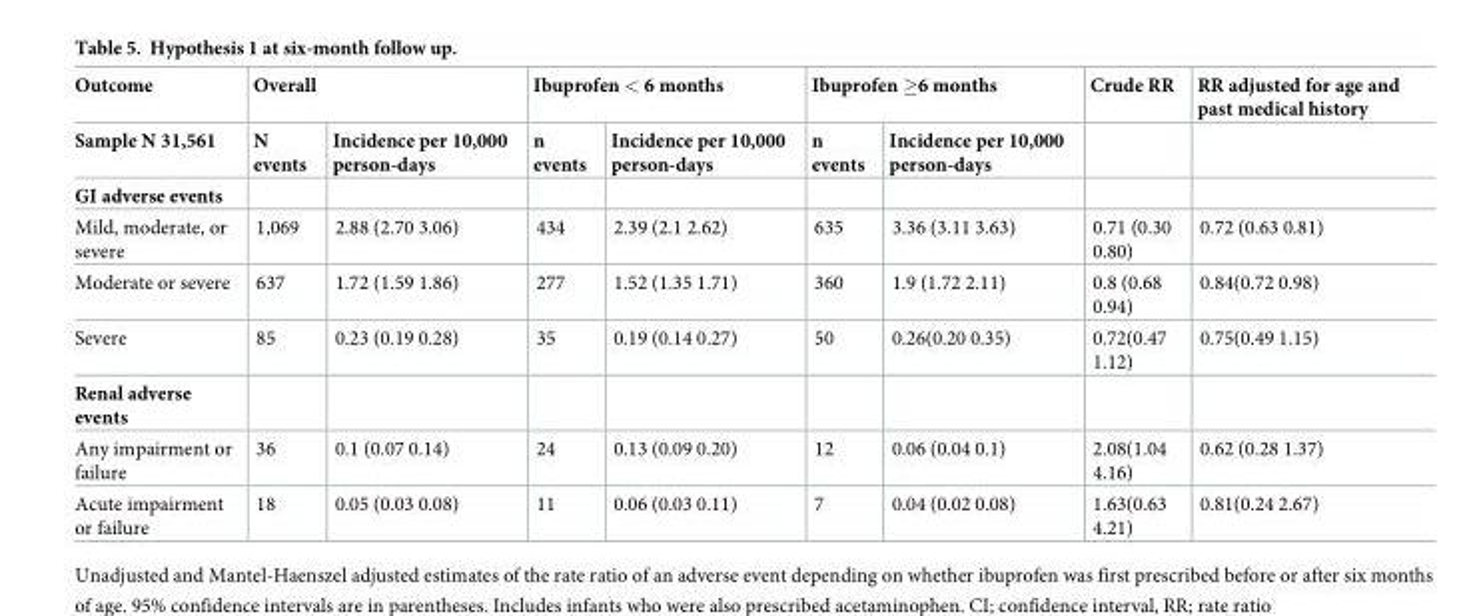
<table><thead><tr><td rowspan="2">Outcome Sample N 31,561</td><td colspan="2">Overall</td><td colspan="2">Ibuprofen &lt; 6 months</td><td colspan="2">Ibuprofen ≥6 months</td><td rowspan="2">Crude RR</td><td rowspan="2">RR adjusted for age and past medical history</td></tr><tr><td>N events</td><td>Incidence per 10,000 person-days</td><td>n events</td><td>Incidence per 10,000 person-days</td><td>n events</td><td>Incidence per 10,000 person-days</td></tr></thead><tbody><tr><td colspan="9">GI adverse events</td></tr><tr><td>Mild, moderate, or severe</td><td>1,069</td><td>2.88 (2.70 3.06)</td><td>434</td><td>2.39 (2.1 2.62)</td><td>635</td><td>3.36 (3.11 3.63)</td><td>0.71 (0.30 0.80)</td><td>0.72 (0.63 0.81)</td></tr><tr><td>Moderate or severe</td><td>637</td><td>1.72 (1.59 1.86)</td><td>277</td><td>1.52 (1.35 1.71)</td><td>360</td><td>1.9 (1.72 2.11)</td><td>0.8 (0.68 0.94)</td><td>0.84(0.72 0.98)</td></tr><tr><td>Severe</td><td>85</td><td>0.23 (0.19 0.28)</td><td>35</td><td>0.19 (0.14 0.27)</td><td>50</td><td>0.26(0.20 0.35)</td><td>0.72(0.47 1.12)</td><td>0.75(0.49 1.15)</td></tr><tr><td colspan="9">Renal adverse events</td></tr><tr><td>Any impairment or failure</td><td>36</td><td>0.1 (0.07 0.14)</td><td>24</td><td>0.13 (0.09 0.20)</td><td>12</td><td>0.06 (0.04 0.1)</td><td>2.08(1.04 4.16)</td><td>0.62 (0.28 1.37)</td></tr><tr><td>Acute impairment or failure</td><td>18</td><td>0.05 (0.03 0.08)</td><td>11</td><td>0.06 (0.03 0.11)</td><td>7</td><td>0.04 (0.02 0.08)</td><td>1.63(0.63 4.21)</td><td>0.81(0.24 2.67)</td></tr></tbody></table>